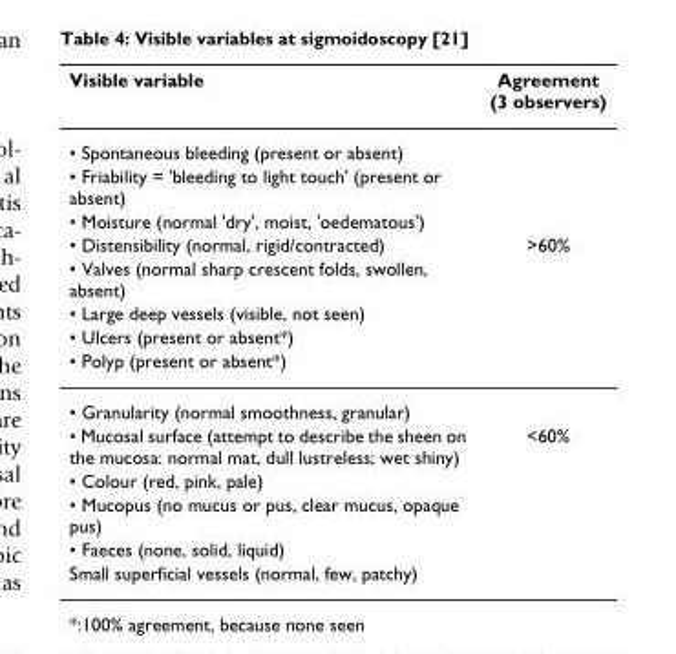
<table><thead><tr><td>Visible variable</td><td>Agreement (3 observers)</td></tr></thead><tbody><tr><td colspan="2">• Spontaneous bleeding (present or absent)</td></tr><tr><td colspan="2">• Friability = &#x27;bleeding to light touch&#x27; (present or absent)</td></tr><tr><td colspan="2">• Moisture (normal &#x27;dry&#x27;, moist, &#x27;oedematous&#x27;)</td></tr><tr><td>• Distensibility (normal, rigid/contracted)</td><td>&gt;60%</td></tr><tr><td colspan="2">• Valves (normal sharp crescent folds, swollen, absent)</td></tr><tr><td colspan="2">• Large deep vessels (visible, not seen)</td></tr><tr><td colspan="2">• Ulcers (present or absent*)</td></tr><tr><td colspan="2">• Polyp (present or absent*)</td></tr><tr><td colspan="2">• Granularity (normal smoothness, granular)</td></tr><tr><td>• Mucosal surface (attempt to describe the sheen on the mucosa: normal mat, dull lustreless; wet shiny)</td><td>&lt;60%</td></tr><tr><td colspan="2">• Colour (red, pink, pale)</td></tr><tr><td colspan="2">• Mucopus (no mucus or pus, clear mucus, opaque pus)</td></tr><tr><td colspan="2">• Faeces (none, solid, liquid)</td></tr><tr><td>Small superficial vessels (normal, few, patchy)</td><td></td></tr></tbody></table>